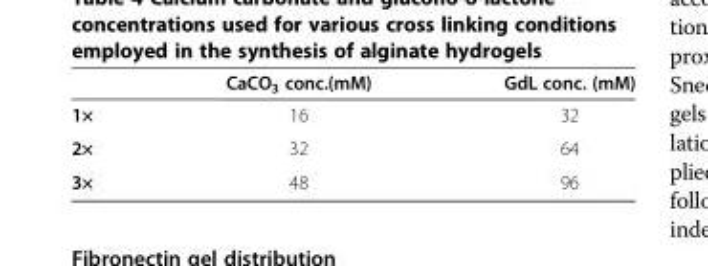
<table><thead><tr><td></td><td>CaCO<sub>3</sub> conc.(mM)</td><td>GdL conc. (mM)</td></tr></thead><tbody><tr><td>1×</td><td>16</td><td>32</td></tr><tr><td>2×</td><td>32</td><td>64</td></tr><tr><td>3×</td><td>48</td><td>96</td></tr></tbody></table>